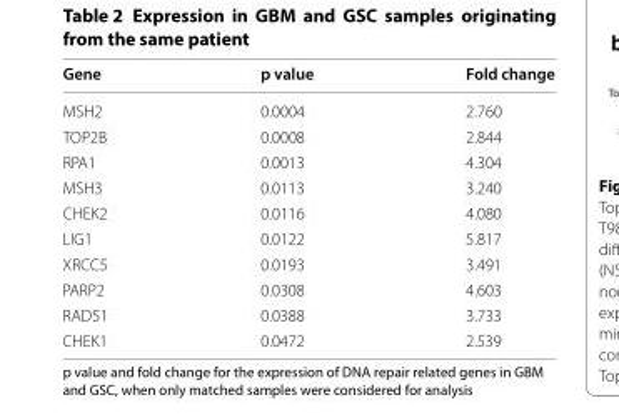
<table><thead><tr><td>Gene</td><td>p value</td><td>Fold change</td></tr></thead><tbody><tr><td>MSH2</td><td>0.0004</td><td>2.760</td></tr><tr><td>TOP2B</td><td>0.0008</td><td>2.844</td></tr><tr><td>RPA1</td><td>0.0013</td><td>4.304</td></tr><tr><td>MSH3</td><td>0.0113</td><td>3.240</td></tr><tr><td>CHEK2</td><td>0.0116</td><td>4.080</td></tr><tr><td>LIG1</td><td>0.0122</td><td>5.817</td></tr><tr><td>XRCC5</td><td>0.0193</td><td>3.491</td></tr><tr><td>PARP2</td><td>0.0308</td><td>4.603</td></tr><tr><td>RAD51</td><td>0.0388</td><td>3.733</td></tr><tr><td>CHEK1</td><td>0.0472</td><td>2.539</td></tr></tbody></table>